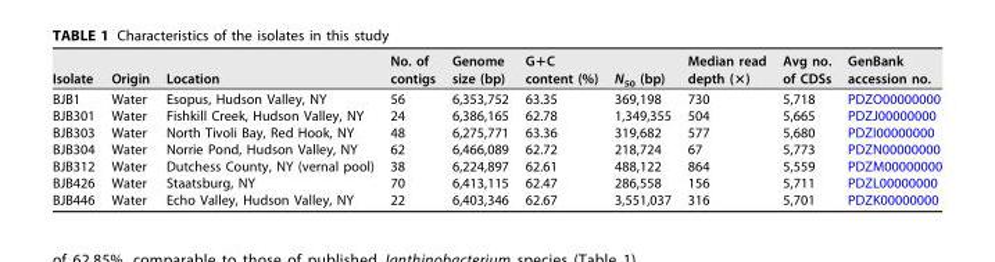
<table><thead><tr><td>Isolate</td><td>Origin</td><td>Location</td><td>No. of contigs</td><td>Genome size (bp)</td><td>G+C content (%)</td><td>N<sub>50</sub> (bp)</td><td>Median read depth (×)</td><td>Avg no. of CDSs</td><td>GenBank accession no.</td></tr></thead><tbody><tr><td>BJB1</td><td>Water</td><td>Esopus, Hudson Valley, NY</td><td>56</td><td>6,353,752</td><td>63.35</td><td>369,198</td><td>730</td><td>5,718</td><td>PDZO00000000</td></tr><tr><td>BJB301</td><td>Water</td><td>Fishkill Creek, Hudson Valley, NY</td><td>24</td><td>6,386,165</td><td>62.78</td><td>1,349,355</td><td>504</td><td>5,665</td><td>PDZJ00000000</td></tr><tr><td>BJB303</td><td>Water</td><td>North Tivoli Bay, Red Hook, NY</td><td>48</td><td>6,275,771</td><td>63.36</td><td>319,682</td><td>577</td><td>5,680</td><td>PDZI00000000</td></tr><tr><td>BJB304</td><td>Water</td><td>Norrie Pond, Hudson Valley, NY</td><td>62</td><td>6,466,089</td><td>62.72</td><td>218,724</td><td>67</td><td>5,773</td><td>PDZN00000000</td></tr><tr><td>BJB312</td><td>Water</td><td>Dutchess County, NY (vernal pool)</td><td>38</td><td>6,224,897</td><td>62.61</td><td>488,122</td><td>864</td><td>5,559</td><td>PDZM00000000</td></tr><tr><td>BJB426</td><td>Water</td><td>Staatsburg, NY</td><td>70</td><td>6,413,115</td><td>62.47</td><td>286,558</td><td>156</td><td>5,711</td><td>PDZL00000000</td></tr><tr><td>BJB446</td><td>Water</td><td>Echo Valley, Hudson Valley, NY</td><td>22</td><td>6,403,346</td><td>62.67</td><td>3,551,037</td><td>316</td><td>5,701</td><td>PDZK00000000</td></tr></tbody></table>